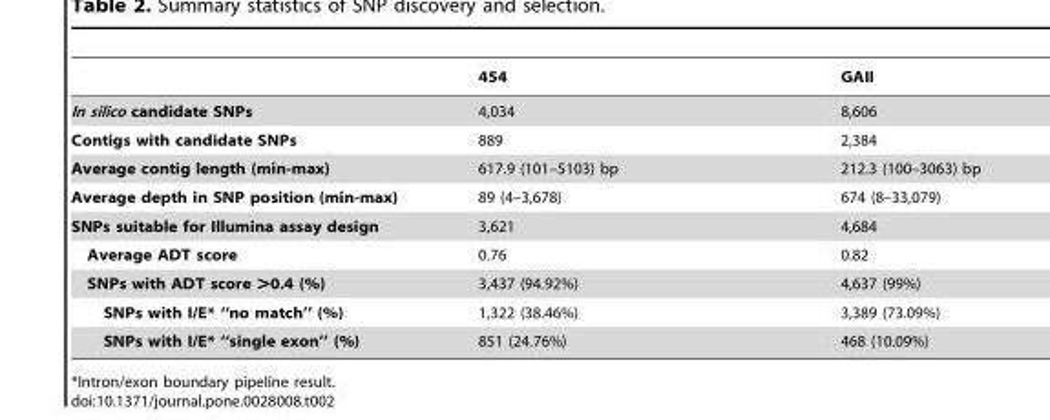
<table><thead><tr><td></td><td>454</td><td>GAII</td></tr></thead><tbody><tr><td>In silico candidate SNPs</td><td>4,034</td><td>8,606</td></tr><tr><td>Contigs with candidate SNPs</td><td>889</td><td>2,384</td></tr><tr><td>Average contig length (min-max)</td><td>617.9 (101–5103) bp</td><td>212.3 (100–3063) bp</td></tr><tr><td>Average depth in SNP position (min-max)</td><td>89 (4–3,678)</td><td>674 (8–33,079)</td></tr><tr><td>SNPs suitable for Illumina assay design</td><td>3,621</td><td>4,684</td></tr><tr><td>Average ADT score</td><td>0.76</td><td>0.82</td></tr><tr><td>SNPs with ADT score &gt;0.4 (%)</td><td>3,437 (94.92%)</td><td>4,637 (99%)</td></tr><tr><td>SNPs with I/E* ‘‘no match’’ (%)</td><td>1,322 (38.46%)</td><td>3,389 (73.09%)</td></tr><tr><td>SNPs with I/E* ‘‘single exon’’ (%)</td><td>851 (24.76%)</td><td>468 (10.09%)</td></tr></tbody></table>